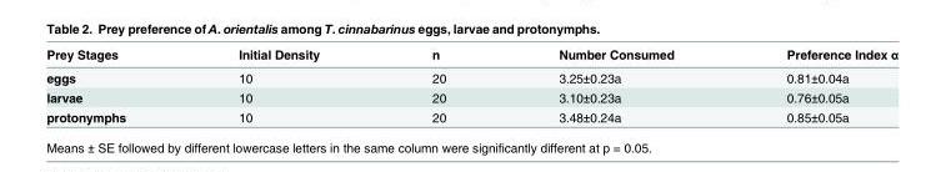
<table><thead><tr><td>Prey Stages</td><td>Initial Density</td><td>n</td><td>Number Consumed</td><td>Preference Index α</td></tr></thead><tbody><tr><td>eggs</td><td>10</td><td>20</td><td>3.25±0.23a</td><td>0.81±0.04a</td></tr><tr><td>larvae</td><td>10</td><td>20</td><td>3.10±0.23a</td><td>0.76±0.05a</td></tr><tr><td>protonymphs</td><td>10</td><td>20</td><td>3.48±0.24a</td><td>0.85±0.05a</td></tr></tbody></table>